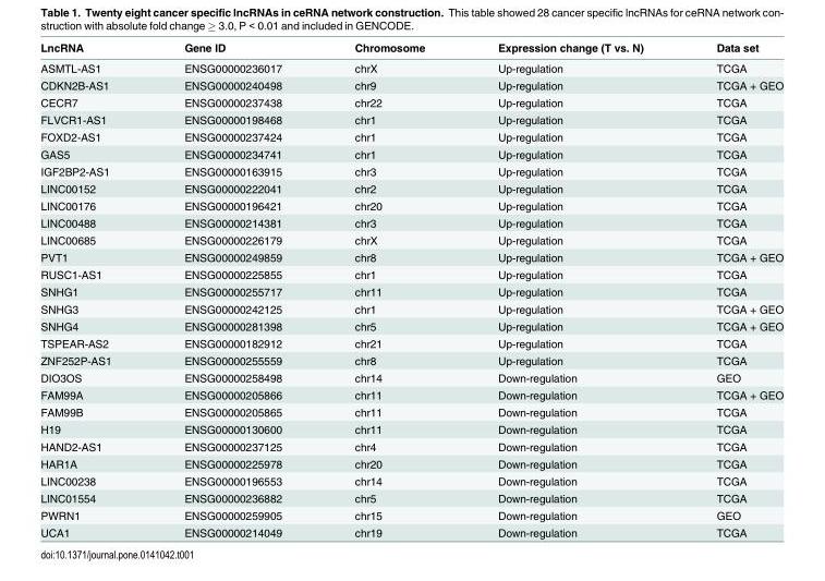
<table><thead><tr><td>LncRNA</td><td>Gene ID</td><td>Chromosome</td><td>Expression change (T vs. N)</td><td>Data set</td></tr></thead><tbody><tr><td>ASMTL-AS1</td><td>ENSG00000236017</td><td>chrX</td><td>Up-regulation</td><td>TCGA</td></tr><tr><td>CDKN2B-AS1</td><td>ENSG00000240498</td><td>chr9</td><td>Up-regulation</td><td>TCGA + GEO</td></tr><tr><td>CECR7</td><td>ENSG00000237438</td><td>chr22</td><td>Up-regulation</td><td>TCGA</td></tr><tr><td>FLVCR1-AS1</td><td>ENSG00000198468</td><td>chr1</td><td>Up-regulation</td><td>TCGA</td></tr><tr><td>FOXD2-AS1</td><td>ENSG00000237424</td><td>chr1</td><td>Up-regulation</td><td>TCGA</td></tr><tr><td>GAS5</td><td>ENSG00000234741</td><td>chr1</td><td>Up-regulation</td><td>TCGA</td></tr><tr><td>IGF2BP2-AS1</td><td>ENSG00000163915</td><td>chr3</td><td>Up-regulation</td><td>TCGA</td></tr><tr><td>LINC00152</td><td>ENSG00000222041</td><td>chr2</td><td>Up-regulation</td><td>TCGA</td></tr><tr><td>LINC00176</td><td>ENSG00000196421</td><td>chr20</td><td>Up-regulation</td><td>TCGA</td></tr><tr><td>LINC00488</td><td>ENSG00000214381</td><td>chr3</td><td>Up-regulation</td><td>TCGA</td></tr><tr><td>LINC00685</td><td>ENSG00000226179</td><td>chrX</td><td>Up-regulation</td><td>TCGA</td></tr><tr><td>PVT1</td><td>ENSG00000249859</td><td>chr8</td><td>Up-regulation</td><td>TCGA + GEO</td></tr><tr><td>RUSC1-AS1</td><td>ENSG00000225855</td><td>chr1</td><td>Up-regulation</td><td>TCGA</td></tr><tr><td>SNHG1</td><td>ENSG00000255717</td><td>chr11</td><td>Up-regulation</td><td>TCGA</td></tr><tr><td>SNHG3</td><td>ENSG00000242125</td><td>chr1</td><td>Up-regulation</td><td>TCGA + GEO</td></tr><tr><td>SNHG4</td><td>ENSG00000281398</td><td>chr5</td><td>Up-regulation</td><td>TCGA + GEO</td></tr><tr><td>TSPEAR-AS2</td><td>ENSG00000182912</td><td>chr21</td><td>Up-regulation</td><td>TCGA</td></tr><tr><td>ZNF252P-AS1</td><td>ENSG00000255559</td><td>chr8</td><td>Up-regulation</td><td>TCGA</td></tr><tr><td>DIO3OS</td><td>ENSG00000258498</td><td>chr14</td><td>Down-regulation</td><td>GEO</td></tr><tr><td>FAM99A</td><td>ENSG00000205866</td><td>chr11</td><td>Down-regulation</td><td>TCGA + GEO</td></tr><tr><td>FAM99B</td><td>ENSG00000205865</td><td>chr11</td><td>Down-regulation</td><td>TCGA</td></tr><tr><td>H19</td><td>ENSG00000130600</td><td>chr11</td><td>Down-regulation</td><td>TCGA</td></tr><tr><td>HAND2-AS1</td><td>ENSG00000237125</td><td>chr4</td><td>Down-regulation</td><td>TCGA</td></tr><tr><td>HAR1A</td><td>ENSG00000225978</td><td>chr20</td><td>Down-regulation</td><td>TCGA</td></tr><tr><td>LINC00238</td><td>ENSG00000196553</td><td>chr14</td><td>Down-regulation</td><td>TCGA</td></tr><tr><td>LINC01554</td><td>ENSG00000236882</td><td>chr5</td><td>Down-regulation</td><td>TCGA</td></tr><tr><td>PWRN1</td><td>ENSG00000259905</td><td>chr15</td><td>Down-regulation</td><td>GEO</td></tr><tr><td>UCA1</td><td>ENSG00000214049</td><td>chr19</td><td>Down-regulation</td><td>TCGA</td></tr></tbody></table>